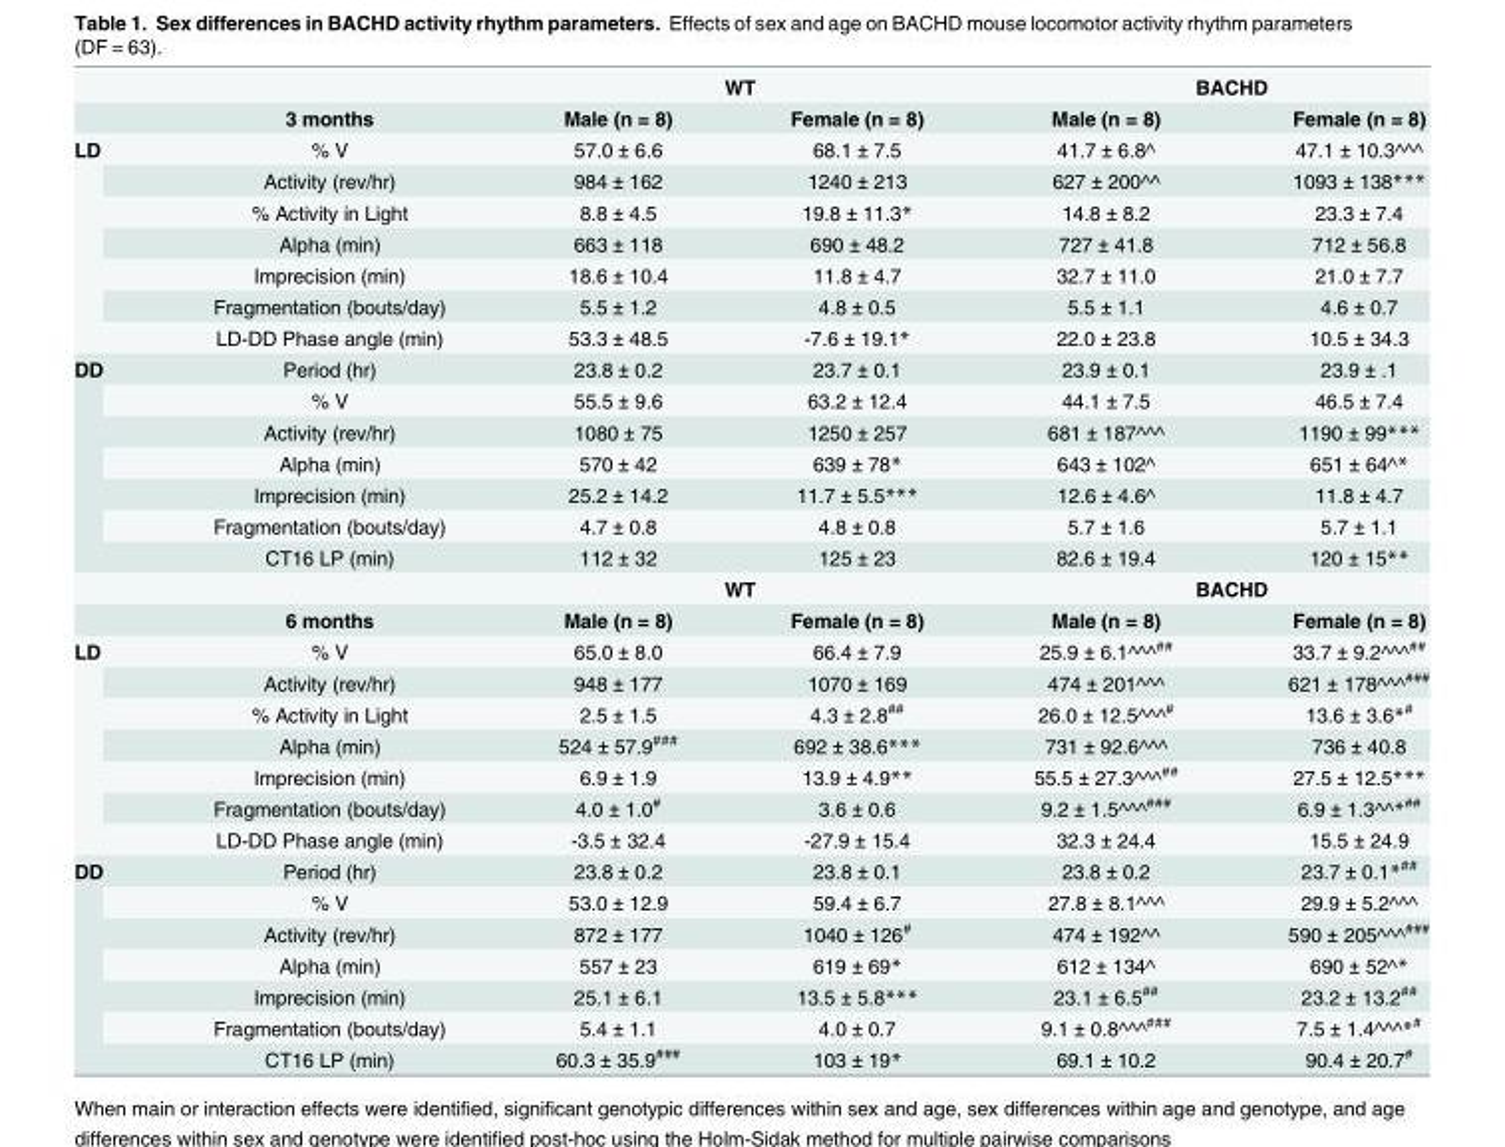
<table><thead><tr><td rowspan="2"></td><td rowspan="2">3 months</td><td colspan="2">WT</td><td colspan="2">BACHD</td></tr><tr><td>Male (n = 8)</td><td>Female (n = 8)</td><td>Male (n = 8)</td><td>Female (n = 8)</td></tr></thead><tbody><tr><td rowspan="7">LD</td><td>% V</td><td>57.0 ± 6.6</td><td>68.1 ± 7.5</td><td>41.7 ± 6.8^</td><td>47.1 ± 10.3^^^</td></tr><tr><td>Activity (rev/hr)</td><td>984 ± 162</td><td>1240 ± 213</td><td>627 ± 200^^</td><td>1093 ± 138***</td></tr><tr><td>% Activity in Light</td><td>8.8 ± 4.5</td><td>19.8 ± 11.3*</td><td>14.8 ± 8.2</td><td>23.3 ± 7.4</td></tr><tr><td>Alpha (min)</td><td>663 ± 118</td><td>690 ± 48.2</td><td>727 ± 41.8</td><td>712 ± 56.8</td></tr><tr><td>Imprecision (min)</td><td>18.6 ± 10.4</td><td>11.8 ± 4.7</td><td>32.7 ± 11.0</td><td>21.0 ± 7.7</td></tr><tr><td>Fragmentation (bouts/day)</td><td>5.5 ± 1.2</td><td>4.8 ± 0.5</td><td>5.5 ± 1.1</td><td>4.6 ± 0.7</td></tr><tr><td>LD-DD Phase angle (min)</td><td>53.3 ± 48.5</td><td>-7.6 ± 19.1*</td><td>22.0 ± 23.8</td><td>10.5 ± 34.3</td></tr><tr><td rowspan="9">DD</td><td>Period (hr)</td><td>23.8 ± 0.2</td><td>23.7 ± 0.1</td><td>23.9 ± 0.1</td><td>23.9 ± .1</td></tr><tr><td>% V</td><td>55.5 ± 9.6</td><td>63.2 ± 12.4</td><td>44.1 ± 7.5</td><td>46.5 ± 7.4</td></tr><tr><td>Activity (rev/hr)</td><td>1080 ± 75</td><td>1250 ± 257</td><td>681 ± 187^^^</td><td>1190 ± 99***</td></tr><tr><td>Alpha (min)</td><td>570 ± 42</td><td>639 ± 78*</td><td>643 ± 102^</td><td>651 ± 64^*</td></tr><tr><td>Imprecision (min)</td><td>25.2 ± 14.2</td><td>11.7 ± 5.5***</td><td>12.6 ± 4.6^</td><td>11.8 ± 4.7</td></tr><tr><td>Fragmentation (bouts/day)</td><td>4.7 ± 0.8</td><td>4.8 ± 0.8</td><td>5.7 ± 1.6</td><td>5.7 ± 1.1</td></tr><tr><td>CT16 LP (min)</td><td>112 ± 32</td><td>125 ± 23</td><td>82.6 ± 19.4</td><td>120 ± 15**</td></tr><tr><td></td><td colspan="2">WT</td><td colspan="2">BACHD</td></tr><tr><td>6 months</td><td>Male (n = 8)</td><td>Female (n = 8)</td><td>Male (n = 8)</td><td>Female (n = 8)</td></tr><tr><td rowspan="7">LD</td><td>% V</td><td>65.0 ± 8.0</td><td>66.4 ± 7.9</td><td>25.9 ± 6.1^^^##</td><td>33.7 ± 9.2^^^##</td></tr><tr><td>Activity (rev/hr)</td><td>948 ± 177</td><td>1070 ± 169</td><td>474 ± 201^^^</td><td>621 ± 178^^^###</td></tr><tr><td>% Activity in Light</td><td>2.5 ± 1.5</td><td>4.3 ± 2.8<sup>##</sup></td><td>26.0 ± 12.5^^^#</td><td>13.6 ± 3.6*<sup>#</sup></td></tr><tr><td>Alpha (min)</td><td>524 ± 57.9<sup>###</sup></td><td>692 ± 38.6***</td><td>731 ± 92.6^^^</td><td>736 ± 40.8</td></tr><tr><td>Imprecision (min)</td><td>6.9 ± 1.9</td><td>13.9 ± 4.9**</td><td>55.5 ± 27.3^^^##</td><td>27.5 ± 12.5***</td></tr><tr><td>Fragmentation (bouts/day)</td><td>4.0 ± 1.0<sup>#</sup></td><td>3.6 ± 0.6</td><td>9.2 ± 1.5^^^###</td><td>6.9 ± 1.3^^*<sup>##</sup></td></tr><tr><td>LD-DD Phase angle (min)</td><td>-3.5 ± 32.4</td><td>-27.9 ± 15.4</td><td>32.3 ± 24.4</td><td>15.5 ± 24.9</td></tr><tr><td rowspan="7">DD</td><td>Period (hr)</td><td>23.8 ± 0.2</td><td>23.8 ± 0.1</td><td>23.8 ± 0.2</td><td>23.7 ± 0.1*<sup>##</sup></td></tr><tr><td>% V</td><td>53.0 ± 12.9</td><td>59.4 ± 6.7</td><td>27.8 ± 8.1^^^</td><td>29.9 ± 5.2^^^</td></tr><tr><td>Activity (rev/hr)</td><td>872 ± 177</td><td>1040 ± 126<sup>#</sup></td><td>474 ± 192^^</td><td>590 ± 205^^^###</td></tr><tr><td>Alpha (min)</td><td>557 ± 23</td><td>619 ± 69*</td><td>612 ± 134^</td><td>690 ± 52^*</td></tr><tr><td>Imprecision (min)</td><td>25.1 ± 6.1</td><td>13.5 ± 5.8***</td><td>23.1 ± 6.5<sup>##</sup></td><td>23.2 ± 13.2<sup>##</sup></td></tr><tr><td>Fragmentation (bouts/day)</td><td>5.4 ± 1.1</td><td>4.0 ± 0.7</td><td>9.1 ± 0.8^^^###</td><td>7.5 ± 1.4^^^*<sup>#</sup></td></tr><tr><td>CT16 LP (min)</td><td>60.3 ± 35.9<sup>###</sup></td><td>103 ± 19*</td><td>69.1 ± 10.2</td><td>90.4 ± 20.7<sup>#</sup></td></tr></tbody></table>